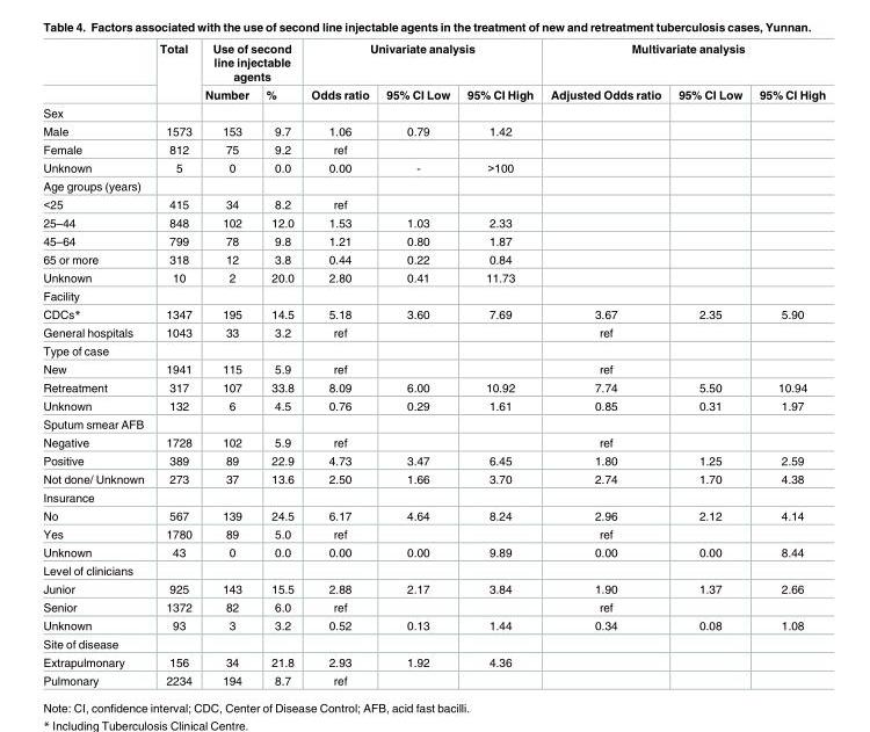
<table><thead><tr><td rowspan="2"></td><td rowspan="2">Total</td><td colspan="2">Use of second line injectable agents</td><td colspan="3">Univariate analysis</td><td colspan="3">Multivariate analysis</td></tr><tr><td>Number</td><td>%</td><td>Odds ratio</td><td>95% CI Low</td><td>95% CI High</td><td>Adjusted Odds ratio</td><td>95% CI Low</td><td>95% CI High</td></tr></thead><tbody><tr><td colspan="10">Sex</td></tr><tr><td>Male</td><td>1573</td><td>153</td><td>9.7</td><td>1.06</td><td>0.79</td><td>1.42</td><td></td><td></td><td></td></tr><tr><td>Female</td><td>812</td><td>75</td><td>9.2</td><td>ref</td><td></td><td></td><td></td><td></td><td></td></tr><tr><td>Unknown</td><td>5</td><td>0</td><td>0.0</td><td>0.00</td><td>-</td><td>&gt;100</td><td></td><td></td><td></td></tr><tr><td colspan="10">Age groups (years)</td></tr><tr><td>&lt;25</td><td>415</td><td>34</td><td>8.2</td><td>ref</td><td></td><td></td><td></td><td></td><td></td></tr><tr><td>25–44</td><td>848</td><td>102</td><td>12.0</td><td>1.53</td><td>1.03</td><td>2.33</td><td></td><td></td><td></td></tr><tr><td>45–64</td><td>799</td><td>78</td><td>9.8</td><td>1.21</td><td>0.80</td><td>1.87</td><td></td><td></td><td></td></tr><tr><td>65 or more</td><td>318</td><td>12</td><td>3.8</td><td>0.44</td><td>0.22</td><td>0.84</td><td></td><td></td><td></td></tr><tr><td>Unknown</td><td>10</td><td>2</td><td>20.0</td><td>2.80</td><td>0.41</td><td>11.73</td><td></td><td></td><td></td></tr><tr><td colspan="10">Facility</td></tr><tr><td>CDCs*</td><td>1347</td><td>195</td><td>14.5</td><td>5.18</td><td>3.60</td><td>7.69</td><td>3.67</td><td>2.35</td><td>5.90</td></tr><tr><td>General hospitals</td><td>1043</td><td>33</td><td>3.2</td><td>ref</td><td></td><td></td><td>ref</td><td></td><td></td></tr><tr><td colspan="10">Type of case</td></tr><tr><td>New</td><td>1941</td><td>115</td><td>5.9</td><td>ref</td><td></td><td></td><td>ref</td><td></td><td></td></tr><tr><td>Retreatment</td><td>317</td><td>107</td><td>33.8</td><td>8.09</td><td>6.00</td><td>10.92</td><td>7.74</td><td>5.50</td><td>10.94</td></tr><tr><td>Unknown</td><td>132</td><td>6</td><td>4.5</td><td>0.76</td><td>0.29</td><td>1.61</td><td>0.85</td><td>0.31</td><td>1.97</td></tr><tr><td colspan="10">Sputum smear AFB</td></tr><tr><td>Negative</td><td>1728</td><td>102</td><td>5.9</td><td>ref</td><td></td><td></td><td>ref</td><td></td><td></td></tr><tr><td>Positive</td><td>389</td><td>89</td><td>22.9</td><td>4.73</td><td>3.47</td><td>6.45</td><td>1.80</td><td>1.25</td><td>2.59</td></tr><tr><td>Not done/ Unknown</td><td>273</td><td>37</td><td>13.6</td><td>2.50</td><td>1.66</td><td>3.70</td><td>2.74</td><td>1.70</td><td>4.38</td></tr><tr><td colspan="10">Insurance</td></tr><tr><td>No</td><td>567</td><td>139</td><td>24.5</td><td>6.17</td><td>4.64</td><td>8.24</td><td>2.96</td><td>2.12</td><td>4.14</td></tr><tr><td>Yes</td><td>1780</td><td>89</td><td>5.0</td><td>ref</td><td></td><td></td><td>ref</td><td></td><td></td></tr><tr><td>Unknown</td><td>43</td><td>0</td><td>0.0</td><td>0.00</td><td>0.00</td><td>9.89</td><td>0.00</td><td>0.00</td><td>8.44</td></tr><tr><td colspan="10">Level of clinicians</td></tr><tr><td>Junior</td><td>925</td><td>143</td><td>15.5</td><td>2.88</td><td>2.17</td><td>3.84</td><td>1.90</td><td>1.37</td><td>2.66</td></tr><tr><td>Senior</td><td>1372</td><td>82</td><td>6.0</td><td>ref</td><td></td><td></td><td>ref</td><td></td><td></td></tr><tr><td>Unknown</td><td>93</td><td>3</td><td>3.2</td><td>0.52</td><td>0.13</td><td>1.44</td><td>0.34</td><td>0.08</td><td>1.08</td></tr><tr><td colspan="10">Site of disease</td></tr><tr><td>Extrapulmonary</td><td>156</td><td>34</td><td>21.8</td><td>2.93</td><td>1.92</td><td>4.36</td><td></td><td></td><td></td></tr><tr><td>Pulmonary</td><td>2234</td><td>194</td><td>8.7</td><td>ref</td><td></td><td></td><td></td><td></td><td></td></tr></tbody></table>